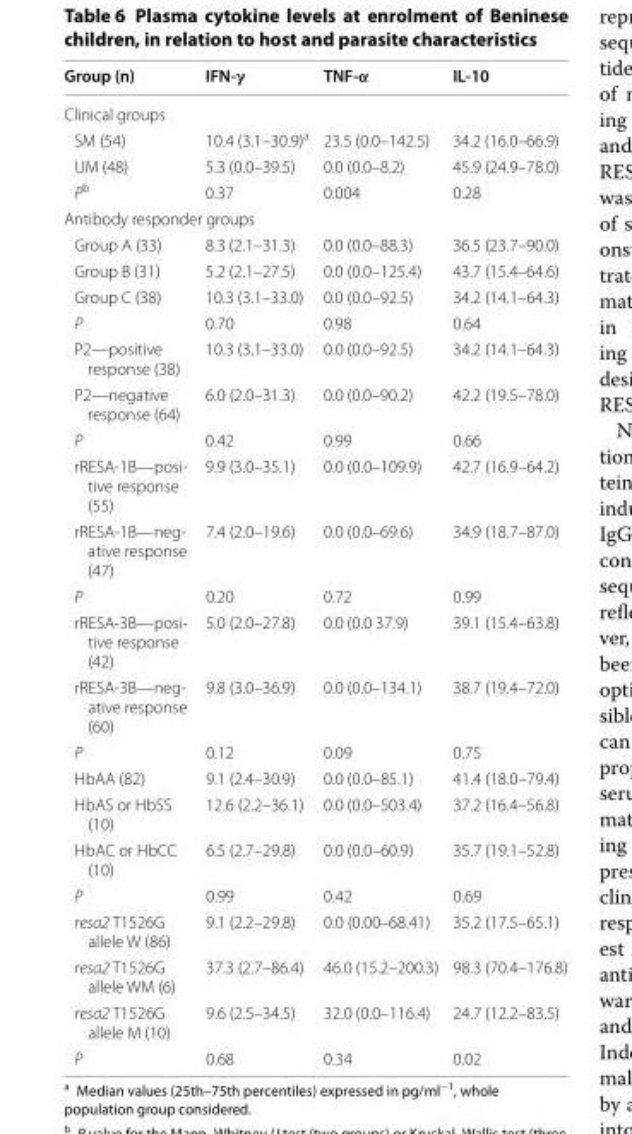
<table><thead><tr><td>Group (n)</td><td>IFN‑γ</td><td>TNF‑α</td><td>IL‑10</td></tr></thead><tbody><tr><td colspan="4">Clinical groups</td></tr><tr><td>SM (54)</td><td>10.4 (3.1–30.9)<sup>a</sup></td><td>23.5 (0.0–142.5)</td><td>34.2 (16.0–66.9)</td></tr><tr><td>UM (48)</td><td>5.3 (0.0–39.5)</td><td>0.0 (0.0–8.2)</td><td>45.9 (24.9–78.0)</td></tr><tr><td>P<sup>b</sup></td><td>0.37</td><td>0.004</td><td>0.28</td></tr><tr><td colspan="4">Antibody responder groups</td></tr><tr><td>Group A (33)</td><td>8.3 (2.1–31.3)</td><td>0.0 (0.0–88.3)</td><td>36.5 (23.7–90.0)</td></tr><tr><td>Group B (31)</td><td>5.2 (2.1–27.5)</td><td>0.0 (0.0–125.4)</td><td>43.7 (15.4–64.6)</td></tr><tr><td>Group C (38)</td><td>10.3 (3.1–33.0)</td><td>0.0 (0.0–92.5)</td><td>34.2 (14.1–64.3)</td></tr><tr><td>P</td><td>0.70</td><td>0.98</td><td>0.64</td></tr><tr><td>P2—positive response (38)</td><td>10.3 (3.1–33.0)</td><td>0.0 (0.0–92.5)</td><td>34.2 (14.1–64.3)</td></tr><tr><td>P2—negative response (64)</td><td>6.0 (2.0–31.3)</td><td>0.0 (0.0–90.2)</td><td>42.2 (19.5–78.0)</td></tr><tr><td>P</td><td>0.42</td><td>0.99</td><td>0.66</td></tr><tr><td>rRESA‑1B—posi‑ tive response (55)</td><td>9.9 (3.0–35.1)</td><td>0.0 (0.0–109.9)</td><td>42.7 (16.9–64.2)</td></tr><tr><td>rRESA‑1B—neg‑ ative response (47)</td><td>7.4 (2.0–19.6)</td><td>0.0 (0.0–69.6)</td><td>34.9 (18.7–87.0)</td></tr><tr><td>P</td><td>0.20</td><td>0.72</td><td>0.99</td></tr><tr><td>rRESA‑3B—posi‑ tive response (42)</td><td>5.0 (2.0–27.8)</td><td>0.0 (0.0 37.9)</td><td>39.1 (15.4–63.8)</td></tr><tr><td>rRESA‑3B—neg‑ ative response (60)</td><td>9.8 (3.0–36.9)</td><td>0.0 (0.0–134.1)</td><td>38.7 (19.4–72.0)</td></tr><tr><td>P</td><td>0.12</td><td>0.09</td><td>0.75</td></tr><tr><td>HbAA (82)</td><td>9.1 (2.4–30.9)</td><td>0.0 (0.0–85.1)</td><td>41.4 (18.0–79.4)</td></tr><tr><td>HbAS or HbSS (10)</td><td>12.6 (2.2–36.1)</td><td>0.0 (0.0–503.4)</td><td>37.2 (16.4–56.8)</td></tr><tr><td>HbAC or HbCC (10)</td><td>6.5 (2.7–29.8)</td><td>0.0 (0.0–60.9)</td><td>35.7 (19.1–52.8)</td></tr><tr><td>P</td><td>0.99</td><td>0.42</td><td>0.69</td></tr><tr><td>resa2 T1526G allele W (86)</td><td>9.1 (2.2–29.8)</td><td>0.0 (0.00–68.41)</td><td>35.2 (17.5–65.1)</td></tr><tr><td>resa2 T1526G allele WM (6)</td><td>37.3 (2.7–86.4)</td><td>46.0 (15.2–200.3)</td><td>98.3 (70.4–176.8)</td></tr><tr><td>resa2 T1526G allele M (10)</td><td>9.6 (2.5–34.5)</td><td>32.0 (0.0–116.4)</td><td>24.7 (12.2–83.5)</td></tr><tr><td>P</td><td>0.68</td><td>0.34</td><td>0.02</td></tr></tbody></table>